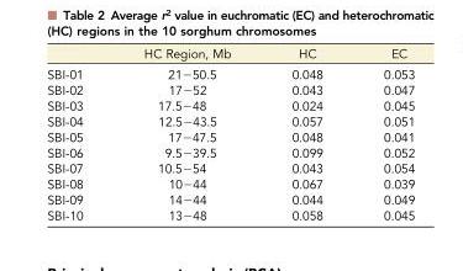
<table><thead><tr><td></td><td>HC Region, Mb</td><td>HC</td><td>EC</td></tr></thead><tbody><tr><td>SBI-01</td><td>21−50.5</td><td>0.048</td><td>0.053</td></tr><tr><td>SBI-02</td><td>17−52</td><td>0.043</td><td>0.047</td></tr><tr><td>SBI-03</td><td>17.5−48</td><td>0.024</td><td>0.045</td></tr><tr><td>SBI-04</td><td>12.5−43.5</td><td>0.057</td><td>0.051</td></tr><tr><td>SBI-05</td><td>17−47.5</td><td>0.048</td><td>0.041</td></tr><tr><td>SBI-06</td><td>9.5−39.5</td><td>0.099</td><td>0.052</td></tr><tr><td>SBI-07</td><td>10.5−54</td><td>0.043</td><td>0.054</td></tr><tr><td>SBI-08</td><td>10−44</td><td>0.067</td><td>0.039</td></tr><tr><td>SBI-09</td><td>14−44</td><td>0.044</td><td>0.049</td></tr><tr><td>SBI-10</td><td>13−48</td><td>0.058</td><td>0.045</td></tr></tbody></table>